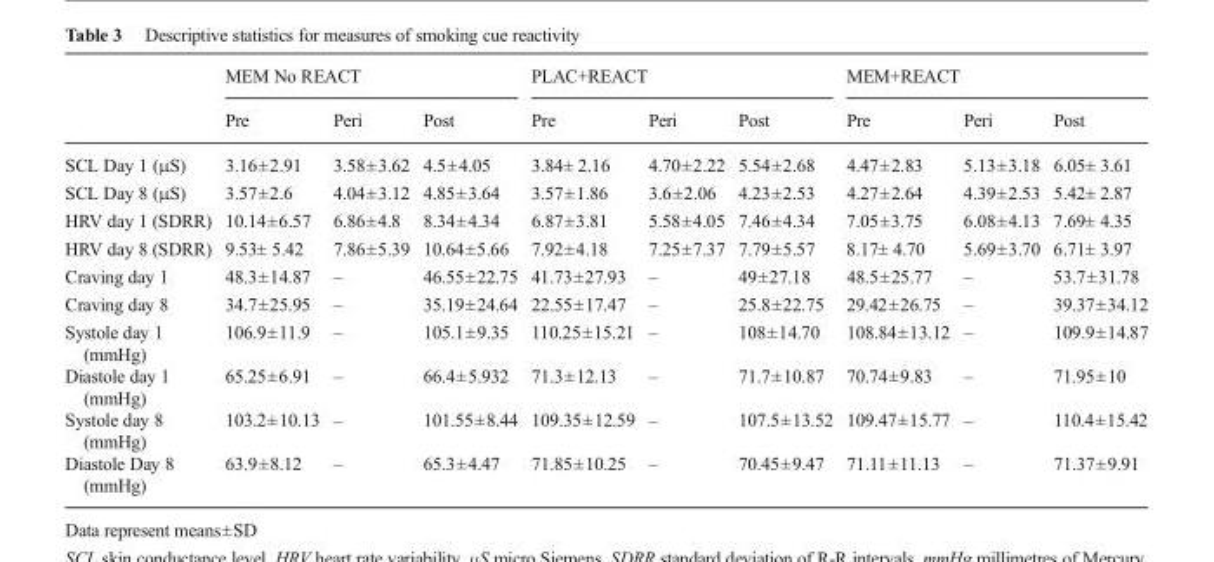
<table><thead><tr><td rowspan="2"></td><td colspan="3">MEM No REACT</td><td colspan="3">PLAC+REACT</td><td colspan="3">MEM+REACT</td></tr><tr><td>Pre</td><td>Peri</td><td>Post</td><td>Pre</td><td>Peri</td><td>Post</td><td>Pre</td><td>Peri</td><td>Post</td></tr></thead><tbody><tr><td>SCL Day 1 (μS)</td><td>3.16±2.91</td><td>3.58±3.62</td><td>4.5±4.05</td><td>3.84± 2.16</td><td>4.70±2.22</td><td>5.54±2.68</td><td>4.47±2.83</td><td>5.13±3.18</td><td>6.05± 3.61</td></tr><tr><td>SCL Day 8 (μS)</td><td>3.57±2.6</td><td>4.04±3.12</td><td>4.85±3.64</td><td>3.57±1.86</td><td>3.6±2.06</td><td>4.23±2.53</td><td>4.27±2.64</td><td>4.39±2.53</td><td>5.42± 2.87</td></tr><tr><td>HRV day 1 (SDRR)</td><td>10.14±6.57</td><td>6.86±4.8</td><td>8.34±4.34</td><td>6.87±3.81</td><td>5.58±4.05</td><td>7.46±4.34</td><td>7.05±3.75</td><td>6.08±4.13</td><td>7.69± 4.35</td></tr><tr><td>HRV day 8 (SDRR)</td><td>9.53± 5.42</td><td>7.86±5.39</td><td>10.64±5.66</td><td>7.92±4.18</td><td>7.25±7.37</td><td>7.79±5.57</td><td>8.17± 4.70</td><td>5.69±3.70</td><td>6.71± 3.97</td></tr><tr><td>Craving day 1</td><td>48.3±14.87</td><td>–</td><td>46.55±22.75</td><td>41.73±27.93</td><td>–</td><td>49±27.18</td><td>48.5±25.77</td><td>–</td><td>53.7±31.78</td></tr><tr><td>Craving day 8</td><td>34.7±25.95</td><td>–</td><td>35.19±24.64</td><td>22.55±17.47</td><td>–</td><td>25.8±22.75</td><td>29.42±26.75</td><td>–</td><td>39.37±34.12</td></tr><tr><td>Systole day 1 (mmHg)</td><td>106.9±11.9</td><td>–</td><td>105.1±9.35</td><td>110.25±15.21</td><td>–</td><td>108±14.70</td><td>108.84±13.12</td><td>–</td><td>109.9±14.87</td></tr><tr><td>Diastole day 1 (mmHg)</td><td>65.25±6.91</td><td>–</td><td>66.4±5.932</td><td>71.3±12.13</td><td>–</td><td>71.7±10.87</td><td>70.74±9.83</td><td>–</td><td>71.95±10</td></tr><tr><td>Systole day 8 (mmHg)</td><td>103.2±10.13</td><td>–</td><td>101.55±8.44</td><td>109.35±12.59</td><td>–</td><td>107.5±13.52</td><td>109.47±15.77</td><td>–</td><td>110.4±15.42</td></tr><tr><td>Diastole Day 8 (mmHg)</td><td>63.9±8.12</td><td>–</td><td>65.3±4.47</td><td>71.85±10.25</td><td>–</td><td>70.45±9.47</td><td>71.11±11.13</td><td>–</td><td>71.37±9.91</td></tr></tbody></table>